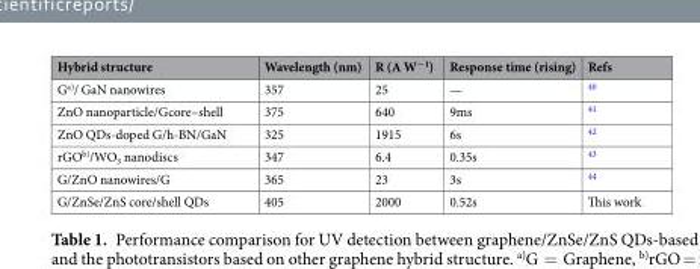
<table><thead><tr><td>Hybrid structure</td><td>Wavelength (nm)</td><td>R (A W<sup>−1</sup>)</td><td>Response time (rising)</td><td>Refs</td></tr></thead><tbody><tr><td>G<sup>a)</sup>/ GaN nanowires</td><td>357</td><td>25</td><td>—</td><td><sup>40</sup></td></tr><tr><td>ZnO nanoparticle/Gcore–shell</td><td>375</td><td>640</td><td>9ms</td><td><sup>41</sup></td></tr><tr><td>ZnO QDs-doped G/h-BN/GaN</td><td>325</td><td>1915</td><td>6s</td><td><sup>42</sup></td></tr><tr><td>rGO<sup>b)</sup>/WO<sub>3</sub> nanodiscs</td><td>347</td><td>6.4</td><td>0.35s</td><td><sup>43</sup></td></tr><tr><td>G/ZnO nanowires/G</td><td>365</td><td>23</td><td>3s</td><td><sup>44</sup></td></tr><tr><td>G/ZnSe/ZnS core/shell QDs</td><td>405</td><td>2000</td><td>0.52s</td><td>This work</td></tr></tbody></table>